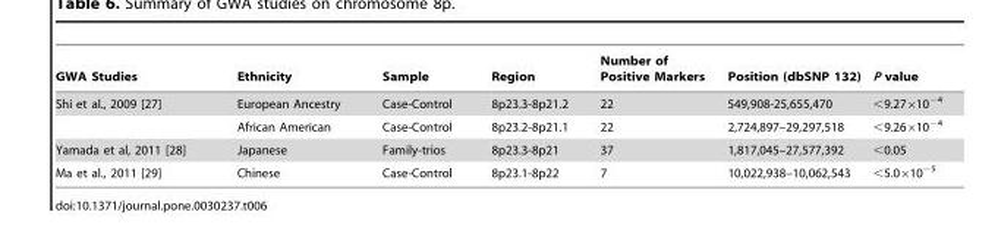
<table><thead><tr><td>GWA Studies</td><td>Ethnicity</td><td>Sample</td><td>Region</td><td>Number of Positive Markers</td><td>Position (dbSNP 132)</td><td>P value</td></tr></thead><tbody><tr><td rowspan="2">Shi et al., 2009 [27]</td><td>European Ancestry</td><td>Case-Control</td><td>8p23.3-8p21.2</td><td>22</td><td>549,908-25,655,470</td><td>&lt;9.27×10<sup>−4</sup></td></tr><tr><td>African American</td><td>Case-Control</td><td>8p23.2-8p21.1</td><td>22</td><td>2,724,897–29,297,518</td><td>&lt;9.26×10<sup>−4</sup></td></tr><tr><td>Yamada et al, 2011 [28]</td><td>Japanese</td><td>Family-trios</td><td>8p23.3-8p21</td><td>37</td><td>1,817,045–27,577,392</td><td>&lt;0.05</td></tr><tr><td>Ma et al., 2011 [29]</td><td>Chinese</td><td>Case-Control</td><td>8p23.1-8p22</td><td>7</td><td>10,022,938–10,062,543</td><td>&lt;5.0×10<sup>−5</sup></td></tr></tbody></table>